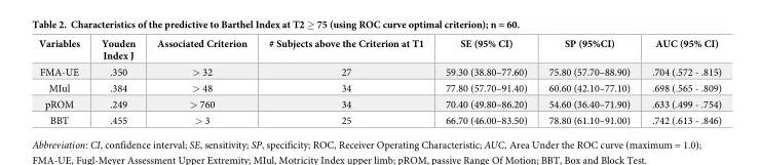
<table><thead><tr><td>Variables</td><td>Youden Index J</td><td>Associated Criterion</td><td># Subjects above the Criterion at T1</td><td>SE (95% CI)</td><td>SP (95%CI)</td><td>AUC (95% CI)</td></tr></thead><tbody><tr><td>FMA-UE</td><td>.350</td><td>&gt; 32</td><td>27</td><td>59.30 (38.80–77.60)</td><td>75.80 (57.70–88.90)</td><td>.704 (.572 - .815)</td></tr><tr><td>MIul</td><td>.384</td><td>&gt; 48</td><td>34</td><td>77.80 (57.70–91.40)</td><td>60.60 (42.10–77.10)</td><td>.698 (.565 - .809)</td></tr><tr><td>pROM</td><td>.249</td><td>&gt; 760</td><td>34</td><td>70.40 (49.80–86.20)</td><td>54.60 (36.40–71.90)</td><td>.633 (.499 - .754)</td></tr><tr><td>BBT</td><td>.455</td><td>&gt; 3</td><td>25</td><td>66.70 (46.00–83.50)</td><td>78.80 (61.10–91.00)</td><td>.742 (.613 - .846)</td></tr></tbody></table>